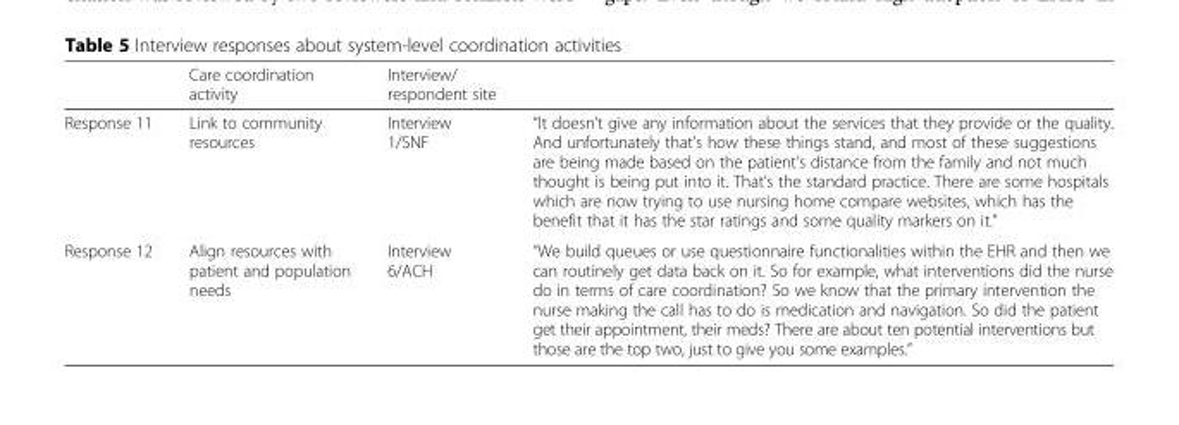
<table><thead><tr><td></td><td>Care coordination activity</td><td>Interview/ respondent site</td><td></td></tr></thead><tbody><tr><td>Response 11</td><td>Link to community resources</td><td>Interview 1/SNF</td><td>“It doesn’t give any information about the services that they provide or the quality. And unfortunately that’s how these things stand, and most of these suggestions are being made based on the patient’s distance from the family and not much thought is being put into it. That’s the standard practice. There are some hospitals which are now trying to use nursing home compare websites, which has the benefit that it has the star ratings and some quality markers on it.”</td></tr><tr><td>Response 12</td><td>Align resources with patient and population needs</td><td>Interview 6/ACH</td><td>“We build queues or use questionnaire functionalities within the EHR and then we can routinely get data back on it. So for example, what interventions did the nurse do in terms of care coordination? So we know that the primary intervention the nurse making the call has to do is medication and navigation. So did the patient get their appointment, their meds? There are about ten potential interventions but those are the top two, just to give you some examples.”</td></tr></tbody></table>